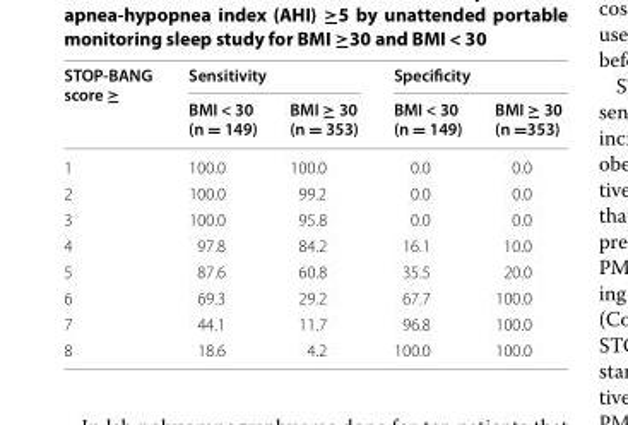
<table><thead><tr><td rowspan="2">STOP-BANG score ≥</td><td colspan="2">Sensitivity</td><td colspan="2">Specificity</td></tr><tr><td>BMI &lt; 30 (n = 149)</td><td>BMI ≥ 30 (n = 353)</td><td>BMI &lt; 30 (n = 149)</td><td>BMI ≥ 30 (n =353)</td></tr></thead><tbody><tr><td>1</td><td>100.0</td><td>100.0</td><td>0.0</td><td>0.0</td></tr><tr><td>2</td><td>100.0</td><td>99.2</td><td>0.0</td><td>0.0</td></tr><tr><td>3</td><td>100.0</td><td>95.8</td><td>0.0</td><td>0.0</td></tr><tr><td>4</td><td>97.8</td><td>84.2</td><td>16.1</td><td>10.0</td></tr><tr><td>5</td><td>87.6</td><td>60.8</td><td>35.5</td><td>20.0</td></tr><tr><td>6</td><td>69.3</td><td>29.2</td><td>67.7</td><td>100.0</td></tr><tr><td>7</td><td>44.1</td><td>11.7</td><td>96.8</td><td>100.0</td></tr><tr><td>8</td><td>18.6</td><td>4.2</td><td>100.0</td><td>100.0</td></tr></tbody></table>